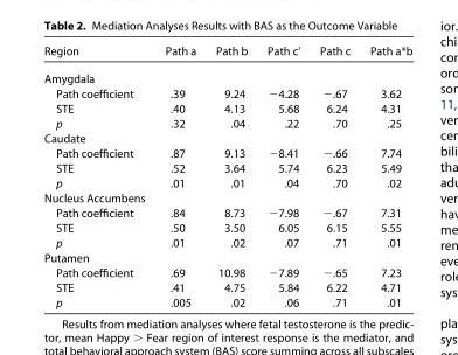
<table><thead><tr><td>Region</td><td>Path a</td><td>Path b</td><td>Path c’</td><td>Path c</td><td>Path a*b</td></tr></thead><tbody><tr><td colspan="6">Amygdala</td></tr><tr><td>Path coefficient</td><td>.39</td><td>9.24</td><td>−4.28</td><td>−.67</td><td>3.62</td></tr><tr><td>STE</td><td>.40</td><td>4.13</td><td>5.68</td><td>6.24</td><td>4.31</td></tr><tr><td>p</td><td>.32</td><td>.04</td><td>.22</td><td>.70</td><td>.25</td></tr><tr><td colspan="6">Caudate</td></tr><tr><td>Path coefficient</td><td>.87</td><td>9.13</td><td>−8.41</td><td>−.66</td><td>7.74</td></tr><tr><td>STE</td><td>.52</td><td>3.64</td><td>5.74</td><td>6.23</td><td>5.49</td></tr><tr><td>p</td><td>.01</td><td>.01</td><td>.04</td><td>.70</td><td>.02</td></tr><tr><td colspan="6">Nucleus Accumbens</td></tr><tr><td>Path coefficient</td><td>.84</td><td>8.73</td><td>−7.98</td><td>−.67</td><td>7.31</td></tr><tr><td>STE</td><td>.50</td><td>3.50</td><td>6.05</td><td>6.15</td><td>5.55</td></tr><tr><td>p</td><td>.01</td><td>.02</td><td>.07</td><td>.71</td><td>.01</td></tr><tr><td colspan="6">Putamen</td></tr><tr><td>Path coefficient</td><td>.69</td><td>10.98</td><td>−7.89</td><td>−.65</td><td>7.23</td></tr><tr><td>STE</td><td>.41</td><td>4.75</td><td>5.84</td><td>6.22</td><td>4.71</td></tr><tr><td>p</td><td>.005</td><td>.02</td><td>.06</td><td>.71</td><td>.01</td></tr></tbody></table>